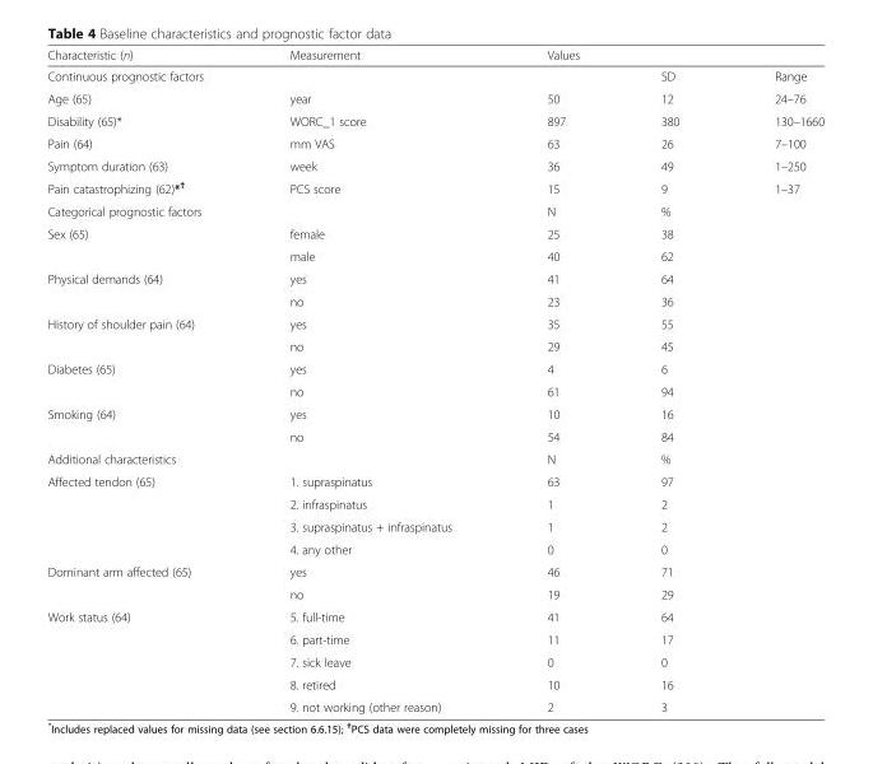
<table><thead><tr><td>Characteristic (n)</td><td>Measurement</td><td colspan="3">Values</td></tr><tr><td colspan="2">Continuous prognostic factors</td><td></td><td>SD</td><td>Range</td></tr></thead><tbody><tr><td>Age (65)</td><td>year</td><td>50</td><td>12</td><td>24–76</td></tr><tr><td>Disability (65)*</td><td>WORC_1 score</td><td>897</td><td>380</td><td>130–1660</td></tr><tr><td>Pain (64)</td><td>mm VAS</td><td>63</td><td>26</td><td>7–100</td></tr><tr><td>Symptom duration (63)</td><td>week</td><td>36</td><td>49</td><td>1–250</td></tr><tr><td>Pain catastrophizing (62)*<sup>†</sup></td><td>PCS score</td><td>15</td><td>9</td><td>1–37</td></tr><tr><td colspan="2">Categorical prognostic factors</td><td>N</td><td>%</td><td></td></tr><tr><td rowspan="2">Sex (65)</td><td>female</td><td>25</td><td>38</td><td></td></tr><tr><td>male</td><td>40</td><td>62</td><td></td></tr><tr><td rowspan="2">Physical demands (64)</td><td>yes</td><td>41</td><td>64</td><td></td></tr><tr><td>no</td><td>23</td><td>36</td><td></td></tr><tr><td rowspan="2">History of shoulder pain (64)</td><td>yes</td><td>35</td><td>55</td><td></td></tr><tr><td>no</td><td>29</td><td>45</td><td></td></tr><tr><td rowspan="2">Diabetes (65)</td><td>yes</td><td>4</td><td>6</td><td></td></tr><tr><td>no</td><td>61</td><td>94</td><td></td></tr><tr><td rowspan="2">Smoking (64)</td><td>yes</td><td>10</td><td>16</td><td></td></tr><tr><td>no</td><td>54</td><td>84</td><td></td></tr><tr><td colspan="2">Additional characteristics</td><td>N</td><td>%</td><td></td></tr><tr><td rowspan="4">Affected tendon (65)</td><td>1. supraspinatus</td><td>63</td><td>97</td><td></td></tr><tr><td>2. infraspinatus</td><td>1</td><td>2</td><td></td></tr><tr><td>3. supraspinatus + infraspinatus</td><td>1</td><td>2</td><td></td></tr><tr><td>4. any other</td><td>0</td><td>0</td><td></td></tr><tr><td rowspan="2">Dominant arm affected (65)</td><td>yes</td><td>46</td><td>71</td><td></td></tr><tr><td>no</td><td>19</td><td>29</td><td></td></tr><tr><td rowspan="5">Work status (64)</td><td>5. full-time</td><td>41</td><td>64</td><td></td></tr><tr><td>6. part-time</td><td>11</td><td>17</td><td></td></tr><tr><td>7. sick leave</td><td>0</td><td>0</td><td></td></tr><tr><td>8. retired</td><td>10</td><td>16</td><td></td></tr><tr><td>9. not working (other reason)</td><td>2</td><td>3</td><td></td></tr></tbody></table>